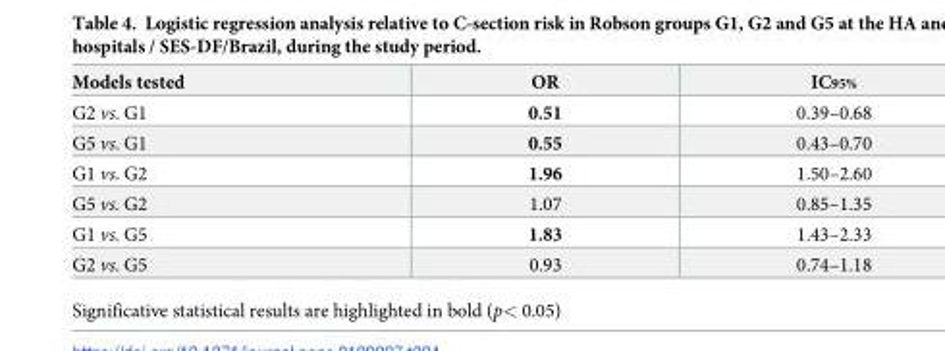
<table><thead><tr><td>Models tested</td><td>OR</td><td>IC95%</td></tr></thead><tbody><tr><td>G2 vs. G1</td><td>0.51</td><td>0.39–0.68</td></tr><tr><td>G5 vs. G1</td><td>0.55</td><td>0.43–0.70</td></tr><tr><td>G1 vs. G2</td><td>1.96</td><td>1.50–2.60</td></tr><tr><td>G5 vs. G2</td><td>1.07</td><td>0.85–1.35</td></tr><tr><td>G1 vs. G5</td><td>1.83</td><td>1.43–2.33</td></tr><tr><td>G2 vs. G5</td><td>0.93</td><td>0.74–1.18</td></tr></tbody></table>